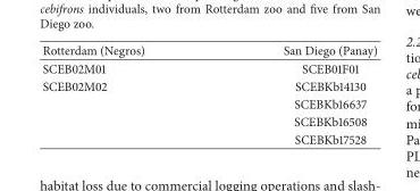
<table><thead><tr><td>Rotterdam (Negros)</td><td>San Diego (Panay)</td></tr></thead><tbody><tr><td>SCEB02M01</td><td>SCEB01F01</td></tr><tr><td rowspan="4">SCEB02M02</td><td>SCEBKb14130</td></tr><tr><td>SCEBKb16637</td></tr><tr><td>SCEBKb16508</td></tr><tr><td>SCEBKb17528</td></tr></tbody></table>